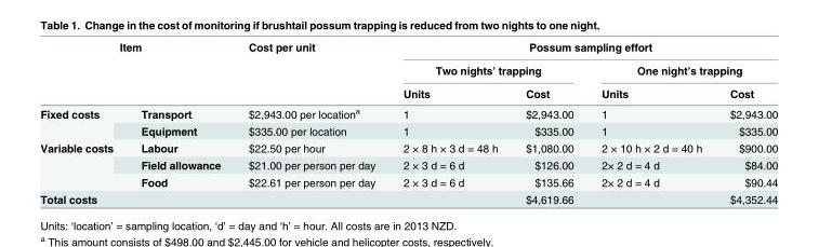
<table><thead><tr><td colspan="2">Item</td><td rowspan="3">Cost per unit</td><td colspan="4">Possum sampling effort</td></tr><tr><td rowspan="2"></td><td rowspan="2"></td><td colspan="2">Two nights’ trapping</td><td colspan="2">One night’s trapping</td></tr><tr><td>Units</td><td>Cost</td><td>Units</td><td>Cost</td></tr></thead><tbody><tr><td rowspan="2">Fixed costs</td><td>Transport</td><td>$2,943.00 per location<sup>a</sup></td><td>1</td><td>$2,943.00</td><td>1</td><td>$2,943.00</td></tr><tr><td>Equipment</td><td>$335.00 per location</td><td>1</td><td>$335.00</td><td>1</td><td>$335.00</td></tr><tr><td rowspan="3">Variable costs</td><td>Labour</td><td>$22.50 per hour</td><td>2 × 8 h × 3 d = 48 h</td><td>$1,080.00</td><td>2 × 10 h × 2 d = 40 h</td><td>$900.00</td></tr><tr><td>Field allowance</td><td>$21.00 per person per day</td><td>2 × 3 d = 6 d</td><td>$126.00</td><td>2× 2 d = 4 d</td><td>$84.00</td></tr><tr><td>Food</td><td>$22.61 per person per day</td><td>2 × 3 d = 6 d</td><td>$135.66</td><td>2× 2 d = 4 d</td><td>$90.44</td></tr><tr><td>Total costs</td><td></td><td></td><td></td><td>$4,619.66</td><td></td><td>$4,352.44</td></tr></tbody></table>